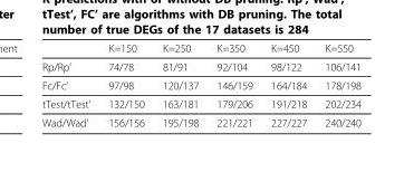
<table><thead><tr><td></td><td>K=150</td><td>K=250</td><td>K=350</td><td>K=450</td><td>K=550</td></tr></thead><tbody><tr><td>Rp/Rp’</td><td>74/78</td><td>81/91</td><td>92/104</td><td>98/122</td><td>106/141</td></tr><tr><td>Fc/Fc’</td><td>97/98</td><td>120/137</td><td>146/159</td><td>164/184</td><td>178/198</td></tr><tr><td>tTest/tTest’</td><td>132/150</td><td>163/181</td><td>179/206</td><td>191/218</td><td>202/234</td></tr><tr><td>Wad/Wad’</td><td>156/156</td><td>195/198</td><td>221/221</td><td>227/227</td><td>240/240</td></tr></tbody></table>